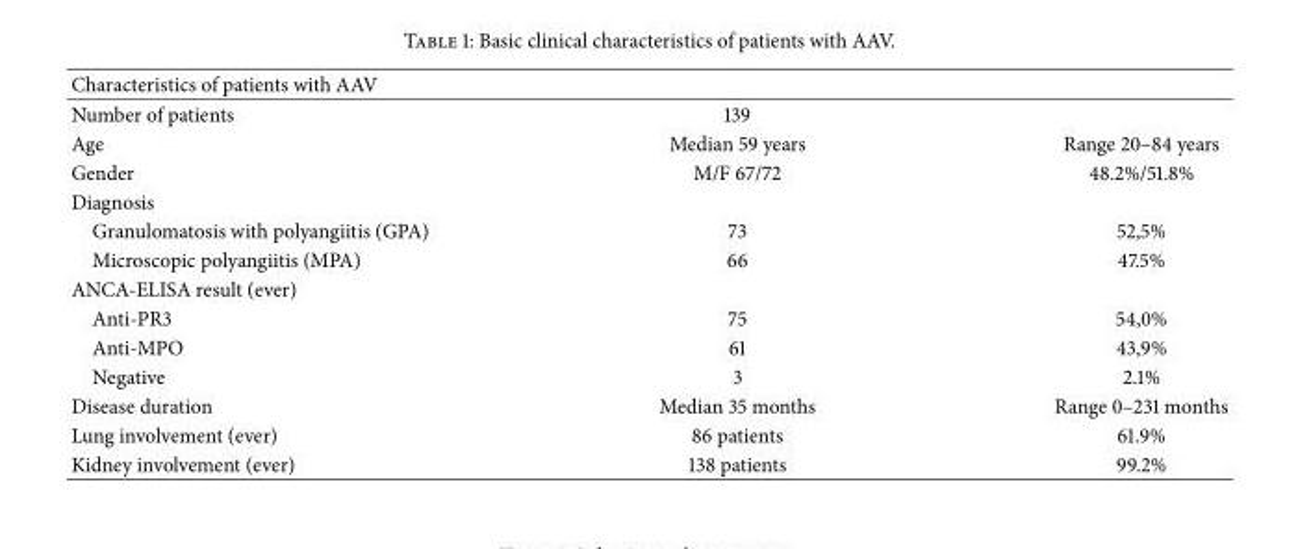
<table><thead><tr><td>Characteristics of patients with AAV</td><td></td><td></td></tr></thead><tbody><tr><td>Number of patients</td><td>139</td><td></td></tr><tr><td>Age</td><td>Median 59 years</td><td>Range 20–84 years</td></tr><tr><td>Gender</td><td>M/F 67/72</td><td>48.2%/51.8%</td></tr><tr><td colspan="3">Diagnosis</td></tr><tr><td>Granulomatosis with polyangiitis (GPA)</td><td>73</td><td>52,5%</td></tr><tr><td>Microscopic polyangiitis (MPA)</td><td>66</td><td>47.5%</td></tr><tr><td colspan="3">ANCA-ELISA result (ever)</td></tr><tr><td>Anti-PR3</td><td>75</td><td>54,0%</td></tr><tr><td>Anti-MPO</td><td>61</td><td>43,9%</td></tr><tr><td>Negative</td><td>3</td><td>2.1%</td></tr><tr><td>Disease duration</td><td>Median 35 months</td><td>Range 0–231 months</td></tr><tr><td>Lung involvement (ever)</td><td>86 patients</td><td>61.9%</td></tr><tr><td>Kidney involvement (ever)</td><td>138 patients</td><td>99.2%</td></tr></tbody></table>